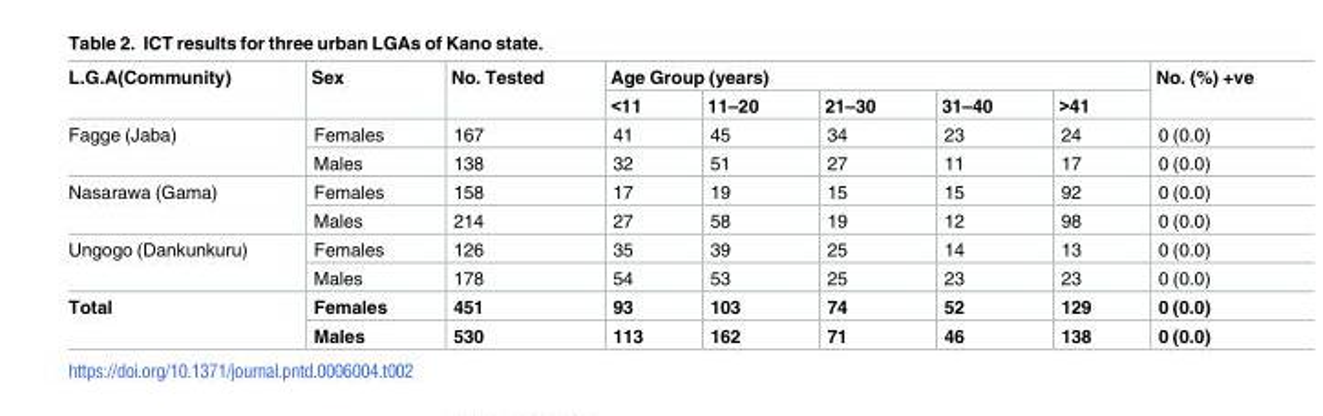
<table><thead><tr><td rowspan="2">L.G.A(Community)</td><td rowspan="2">Sex</td><td rowspan="2">No. Tested</td><td colspan="5">Age Group (years)</td><td rowspan="2">No. (%) +ve</td></tr><tr><td>&lt;11</td><td>11–20</td><td>21–30</td><td>31–40</td><td>&gt;41</td></tr></thead><tbody><tr><td rowspan="2">Fagge (Jaba)</td><td>Females</td><td>167</td><td>41</td><td>45</td><td>34</td><td>23</td><td>24</td><td>0 (0.0)</td></tr><tr><td>Males</td><td>138</td><td>32</td><td>51</td><td>27</td><td>11</td><td>17</td><td>0 (0.0)</td></tr><tr><td rowspan="2">Nasarawa (Gama)</td><td>Females</td><td>158</td><td>17</td><td>19</td><td>15</td><td>15</td><td>92</td><td>0 (0.0)</td></tr><tr><td>Males</td><td>214</td><td>27</td><td>58</td><td>19</td><td>12</td><td>98</td><td>0 (0.0)</td></tr><tr><td rowspan="2">Ungogo (Dankunkuru)</td><td>Females</td><td>126</td><td>35</td><td>39</td><td>25</td><td>14</td><td>13</td><td>0 (0.0)</td></tr><tr><td>Males</td><td>178</td><td>54</td><td>53</td><td>25</td><td>23</td><td>23</td><td>0 (0.0)</td></tr><tr><td rowspan="2">Total</td><td>Females</td><td>451</td><td>93</td><td>103</td><td>74</td><td>52</td><td>129</td><td>0 (0.0)</td></tr><tr><td>Males</td><td>530</td><td>113</td><td>162</td><td>71</td><td>46</td><td>138</td><td>0 (0.0)</td></tr></tbody></table>